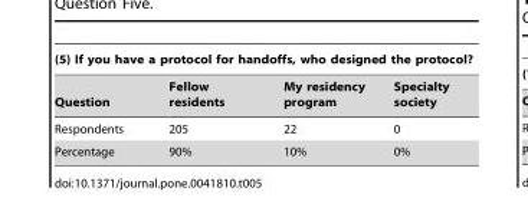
<table><thead><tr><td colspan="4">(5) If you have a protocol for handoffs, who designed the protocol?</td></tr><tr><td>Question</td><td>Fellow residents</td><td>My residency program</td><td>Specialty society</td></tr></thead><tbody><tr><td>Respondents</td><td>205</td><td>22</td><td>0</td></tr><tr><td>Percentage</td><td>90%</td><td>10%</td><td>0%</td></tr></tbody></table>